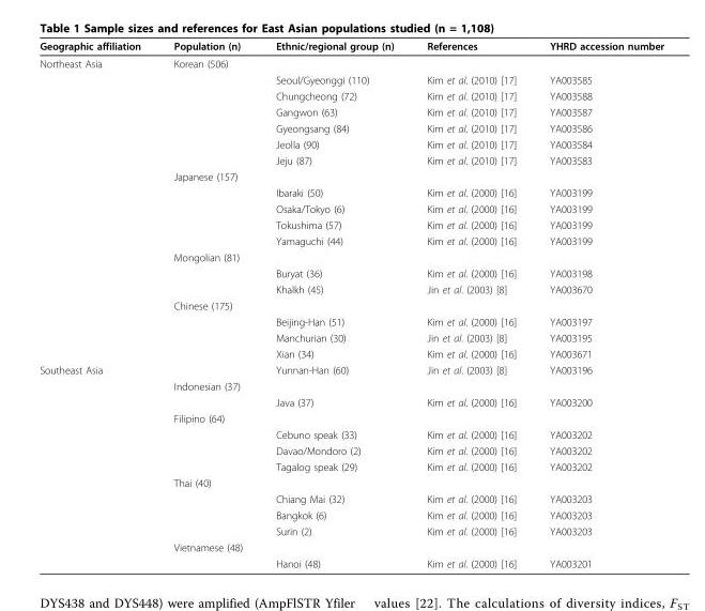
<table><thead><tr><td>Geographic affiliation</td><td>Population (n)</td><td>Ethnic/regional group (n)</td><td>References</td><td>YHRD accession number</td></tr></thead><tbody><tr><td rowspan="19">Northeast Asia</td><td>Korean (506)</td><td></td><td></td><td></td></tr><tr><td></td><td>Seoul/Gyeonggi (110)</td><td>Kim et al. (2010) [17]</td><td>YA003585</td></tr><tr><td></td><td>Chungcheong (72)</td><td>Kim et al. (2010) [17]</td><td>YA003588</td></tr><tr><td></td><td>Gangwon (63)</td><td>Kim et al. (2010) [17]</td><td>YA003587</td></tr><tr><td></td><td>Gyeongsang (84)</td><td>Kim et al. (2010) [17]</td><td>YA003586</td></tr><tr><td></td><td>Jeolla (90)</td><td>Kim et al. (2010) [17]</td><td>YA003584</td></tr><tr><td></td><td>Jeju (87)</td><td>Kim et al. (2010) [17]</td><td>YA003583</td></tr><tr><td>Japanese (157)</td><td></td><td></td><td></td></tr><tr><td></td><td>Ibaraki (50)</td><td>Kim et al. (2000) [16]</td><td>YA003199</td></tr><tr><td></td><td>Osaka/Tokyo (6)</td><td>Kim et al. (2000) [16]</td><td>YA003199</td></tr><tr><td></td><td>Tokushima (57)</td><td>Kim et al. (2000) [16]</td><td>YA003199</td></tr><tr><td></td><td>Yamaguchi (44)</td><td>Kim et al. (2000) [16]</td><td>YA003199</td></tr><tr><td>Mongolian (81)</td><td></td><td></td><td></td></tr><tr><td></td><td>Buryat (36)</td><td>Kim et al. (2000) [16]</td><td>YA003198</td></tr><tr><td></td><td>Khalkh (45)</td><td>Jin et al. (2003) [8]</td><td>YA003670</td></tr><tr><td>Chinese (175)</td><td></td><td></td><td></td></tr><tr><td></td><td>Beijing-Han (51)</td><td>Kim et al. (2000) [16]</td><td>YA003197</td></tr><tr><td></td><td>Manchurian (30)</td><td>Jin et al. (2003) [8]</td><td>YA003195</td></tr><tr><td></td><td>Xian (34)</td><td>Kim et al. (2000) [16]</td><td>YA003671</td></tr><tr><td rowspan="13">Southeast Asia</td><td></td><td>Yunnan-Han (60)</td><td>Jin et al. (2003) [8]</td><td>YA003196</td></tr><tr><td>Indonesian (37)</td><td></td><td></td><td></td></tr><tr><td></td><td>Java (37)</td><td>Kim et al. (2000) [16]</td><td>YA003200</td></tr><tr><td>Filipino (64)</td><td></td><td></td><td></td></tr><tr><td></td><td>Cebuno speak (33)</td><td>Kim et al. (2000) [16]</td><td>YA003202</td></tr><tr><td></td><td>Davao/Mondoro (2)</td><td>Kim et al. (2000) [16]</td><td>YA003202</td></tr><tr><td></td><td>Tagalog speak (29)</td><td>Kim et al. (2000) [16]</td><td>YA003202</td></tr><tr><td>Thai (40)</td><td></td><td></td><td></td></tr><tr><td></td><td>Chiang Mai (32)</td><td>Kim et al. (2000) [16]</td><td>YA003203</td></tr><tr><td></td><td>Bangkok (6)</td><td>Kim et al. (2000) [16]</td><td>YA003203</td></tr><tr><td></td><td>Surin (2)</td><td>Kim et al. (2000) [16]</td><td>YA003203</td></tr><tr><td>Vietnamese (48)</td><td></td><td></td><td></td></tr><tr><td></td><td>Hanoi (48)</td><td>Kim et al. (2000) [16]</td><td>YA003201</td></tr></tbody></table>